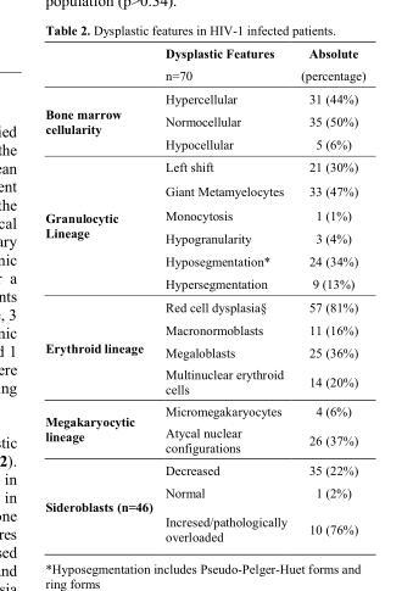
<table><thead><tr><td></td><td>Dysplastic Features n=70</td><td>Absolute (percentage)</td></tr></thead><tbody><tr><td rowspan="3">Bone marrow cellularity</td><td>Hypercellular</td><td>31 (44%)</td></tr><tr><td>Normocellular</td><td>35 (50%)</td></tr><tr><td>Hypocellular</td><td>5 (6%)</td></tr><tr><td rowspan="6">Granulocytic Lineage</td><td>Left shift</td><td>21 (30%)</td></tr><tr><td>Giant Metamyelocytes</td><td>33 (47%)</td></tr><tr><td>Monocytosis</td><td>1 (1%)</td></tr><tr><td>Hypogranularity</td><td>3 (4%)</td></tr><tr><td>Hyposegmentation*</td><td>24 (34%)</td></tr><tr><td>Hypersegmentation</td><td>9 (13%)</td></tr><tr><td rowspan="4">Erythroid lineage</td><td>Red cell dysplasia§</td><td>57 (81%)</td></tr><tr><td>Macronormoblasts</td><td>11 (16%)</td></tr><tr><td>Megaloblasts</td><td>25 (36%)</td></tr><tr><td>Multinuclear erythroid cells</td><td>14 (20%)</td></tr><tr><td rowspan="2">Megakaryocytic lineage</td><td>Micromegakaryocytes</td><td>4 (6%)</td></tr><tr><td>Atycal nuclear configurations</td><td>26 (37%)</td></tr><tr><td rowspan="3">Sideroblasts (n=46)</td><td>Decreased</td><td>35 (22%)</td></tr><tr><td>Normal</td><td>1 (2%)</td></tr><tr><td>Incresed/pathologically overloaded</td><td>10 (76%)</td></tr></tbody></table>